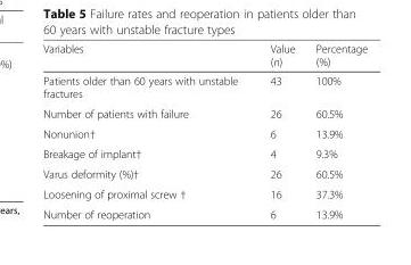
<table><thead><tr><td>Variables</td><td>Value (n)</td><td>Percentage (%)</td></tr></thead><tbody><tr><td>Patients older than 60 years with unstable fractures</td><td>43</td><td>100%</td></tr><tr><td>Number of patients with failure</td><td>26</td><td>60.5%</td></tr><tr><td>Nonunion†</td><td>6</td><td>13.9%</td></tr><tr><td>Breakage of implant†</td><td>4</td><td>9.3%</td></tr><tr><td>Varus deformity (%)†</td><td>26</td><td>60.5%</td></tr><tr><td>Loosening of proximal screw †</td><td>16</td><td>37.3%</td></tr><tr><td>Number of reoperation</td><td>6</td><td>13.9%</td></tr></tbody></table>